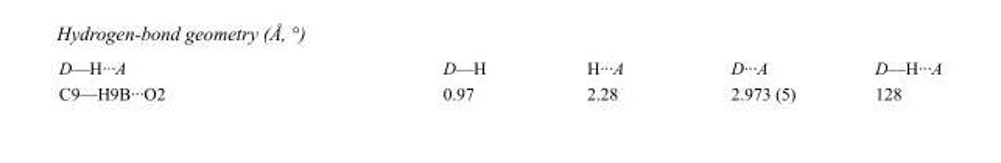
<table><tbody><tr><td>D—H···A</td><td>D—H</td><td>H···A</td><td>D···A</td><td>D—H···A</td></tr><tr><td>C9—H9B···O2</td><td>0.97</td><td>2.28</td><td>2.973 (5)</td><td>128</td></tr></tbody></table>